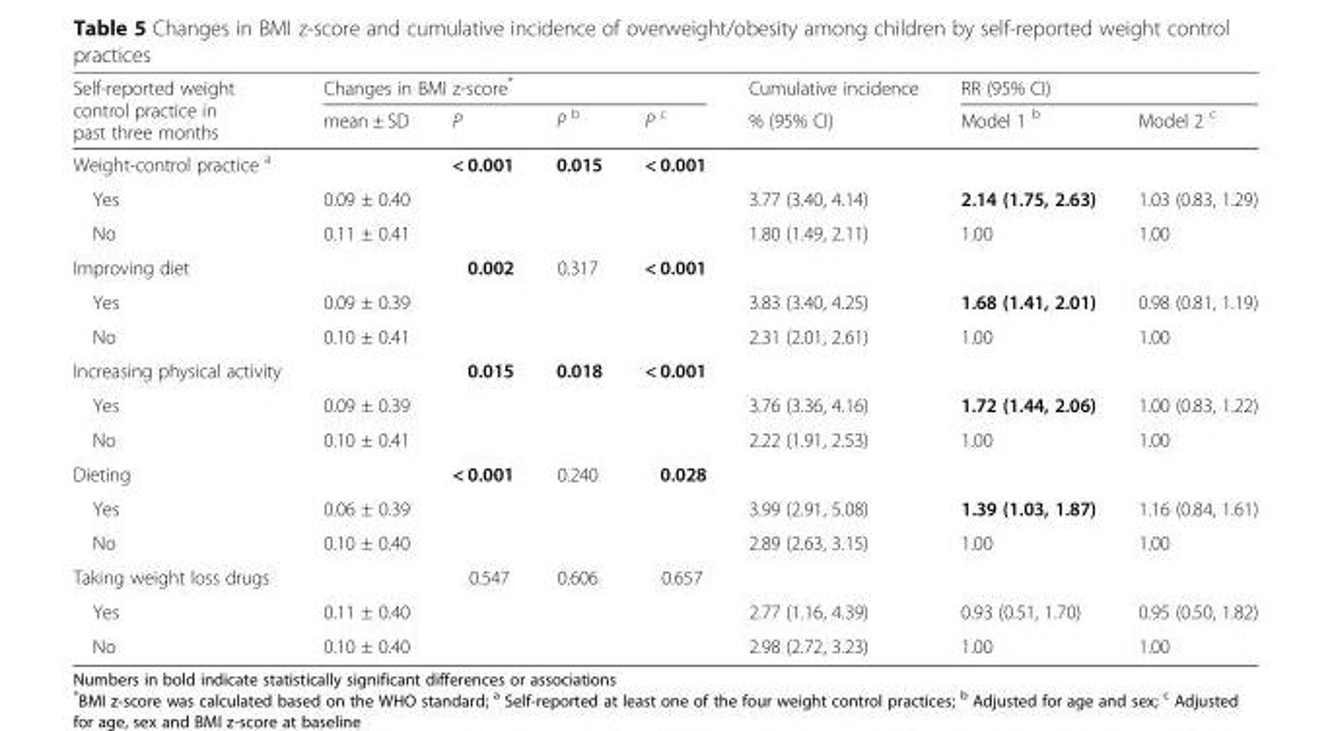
<table><thead><tr><td rowspan="2">Self-reported weight control practice in past three months</td><td colspan="4">Changes in BMI z-score*</td><td rowspan="2">Cumulative incidence % (95% CI)</td><td colspan="2">RR (95% CI)</td></tr><tr><td>mean ± SD</td><td>P</td><td>P <sup>b</sup></td><td>P <sup>c</sup></td><td>Model 1 <sup>b</sup></td><td>Model 2 <sup>c</sup></td></tr></thead><tbody><tr><td>Weight-control practice <sup>a</sup></td><td></td><td>&lt; 0.001</td><td>0.015</td><td>&lt; 0.001</td><td></td><td></td><td></td></tr><tr><td>Yes</td><td>0.09 ± 0.40</td><td></td><td></td><td></td><td>3.77 (3.40, 4.14)</td><td>2.14 (1.75, 2.63)</td><td>1.03 (0.83, 1.29)</td></tr><tr><td>No</td><td>0.11 ± 0.41</td><td></td><td></td><td></td><td>1.80 (1.49, 2.11)</td><td>1.00</td><td>1.00</td></tr><tr><td>Improving diet</td><td></td><td>0.002</td><td>0.317</td><td>&lt; 0.001</td><td></td><td></td><td></td></tr><tr><td>Yes</td><td>0.09 ± 0.39</td><td></td><td></td><td></td><td>3.83 (3.40, 4.25)</td><td>1.68 (1.41, 2.01)</td><td>0.98 (0.81, 1.19)</td></tr><tr><td>No</td><td>0.10 ± 0.41</td><td></td><td></td><td></td><td>2.31 (2.01, 2.61)</td><td>1.00</td><td>1.00</td></tr><tr><td>Increasing physical activity</td><td></td><td>0.015</td><td>0.018</td><td>&lt; 0.001</td><td></td><td></td><td></td></tr><tr><td>Yes</td><td>0.09 ± 0.39</td><td></td><td></td><td></td><td>3.76 (3.36, 4.16)</td><td>1.72 (1.44, 2.06)</td><td>1.00 (0.83, 1.22)</td></tr><tr><td>No</td><td>0.10 ± 0.41</td><td></td><td></td><td></td><td>2.22 (1.91, 2.53)</td><td>1.00</td><td>1.00</td></tr><tr><td>Dieting</td><td></td><td>&lt; 0.001</td><td>0.240</td><td>0.028</td><td></td><td></td><td></td></tr><tr><td>Yes</td><td>0.06 ± 0.39</td><td></td><td></td><td></td><td>3.99 (2.91, 5.08)</td><td>1.39 (1.03, 1.87)</td><td>1.16 (0.84, 1.61)</td></tr><tr><td>No</td><td>0.10 ± 0.40</td><td></td><td></td><td></td><td>2.89 (2.63, 3.15)</td><td>1.00</td><td>1.00</td></tr><tr><td>Taking weight loss drugs</td><td></td><td>0.547</td><td>0.606</td><td>0.657</td><td></td><td></td><td></td></tr><tr><td>Yes</td><td>0.11 ± 0.40</td><td></td><td></td><td></td><td>2.77 (1.16, 4.39)</td><td>0.93 (0.51, 1.70)</td><td>0.95 (0.50, 1.82)</td></tr><tr><td>No</td><td>0.10 ± 0.40</td><td></td><td></td><td></td><td>2.98 (2.72, 3.23)</td><td>1.00</td><td>1.00</td></tr></tbody></table>